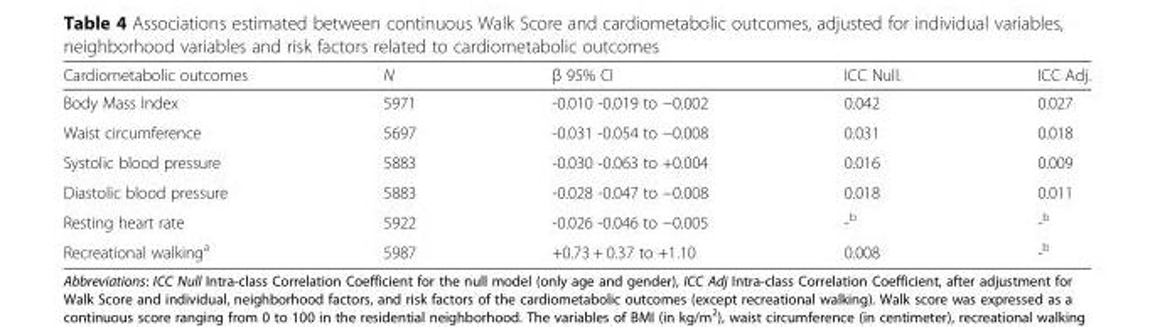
<table><thead><tr><td>Cardiometabolic outcomes</td><td>N</td><td>β 95% CI</td><td>ICC Null.</td><td>ICC Adj.</td></tr></thead><tbody><tr><td>Body Mass Index</td><td>5971</td><td>-0.010 -0.019 to −0.002</td><td>0.042</td><td>0.027</td></tr><tr><td>Waist circumference</td><td>5697</td><td>-0.031 -0.054 to −0.008</td><td>0.031</td><td>0.018</td></tr><tr><td>Systolic blood pressure</td><td>5883</td><td>-0.030 -0.063 to +0.004</td><td>0.016</td><td>0.009</td></tr><tr><td>Diastolic blood pressure</td><td>5883</td><td>-0.028 -0.047 to −0.008</td><td>0.018</td><td>0.011</td></tr><tr><td>Resting heart rate</td><td>5922</td><td>-0.026 -0.046 to −0.005</td><td>-<sup>b</sup></td><td>-<sup>b</sup></td></tr><tr><td>Recreational walking<sup>a</sup></td><td>5987</td><td>+0.73 + 0.37 to +1.10</td><td>0.008</td><td>-<sup>b</sup></td></tr></tbody></table>